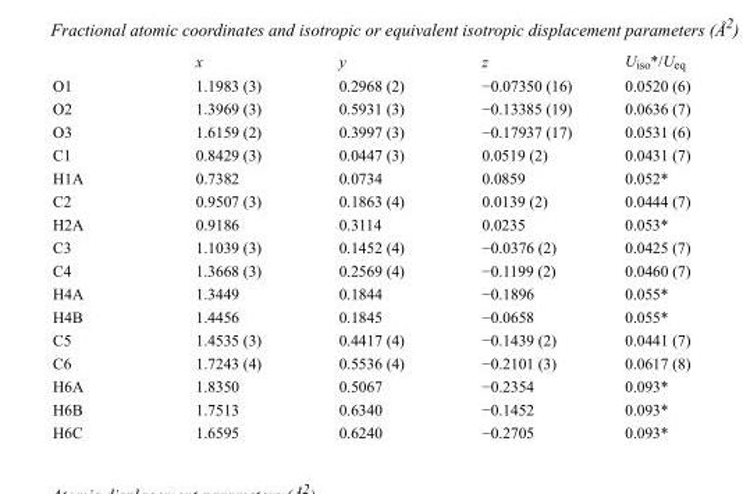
<table><thead><tr><td></td><td>x</td><td>y</td><td>z</td><td>U<sub>iso</sub>*/U<sub>eq</sub></td></tr></thead><tbody><tr><td>O1</td><td>1.1983 (3)</td><td>0.2968 (2)</td><td>−0.07350 (16)</td><td>0.0520 (6)</td></tr><tr><td>O2</td><td>1.3969 (3)</td><td>0.5931 (3)</td><td>−0.13385 (19)</td><td>0.0636 (7)</td></tr><tr><td>O3</td><td>1.6159 (2)</td><td>0.3997 (3)</td><td>−0.17937 (17)</td><td>0.0531 (6)</td></tr><tr><td>C1</td><td>0.8429 (3)</td><td>0.0447 (3)</td><td>0.0519 (2)</td><td>0.0431 (7)</td></tr><tr><td>H1A</td><td>0.7382</td><td>0.0734</td><td>0.0859</td><td>0.052*</td></tr><tr><td>C2</td><td>0.9507 (3)</td><td>0.1863 (4)</td><td>0.0139 (2)</td><td>0.0444 (7)</td></tr><tr><td>H2A</td><td>0.9186</td><td>0.3114</td><td>0.0235</td><td>0.053*</td></tr><tr><td>C3</td><td>1.1039 (3)</td><td>0.1452 (4)</td><td>−0.0376 (2)</td><td>0.0425 (7)</td></tr><tr><td>C4</td><td>1.3668 (3)</td><td>0.2569 (4)</td><td>−0.1199 (2)</td><td>0.0460 (7)</td></tr><tr><td>H4A</td><td>1.3449</td><td>0.1844</td><td>−0.1896</td><td>0.055*</td></tr><tr><td>H4B</td><td>1.4456</td><td>0.1845</td><td>−0.0658</td><td>0.055*</td></tr><tr><td>C5</td><td>1.4535 (3)</td><td>0.4417 (4)</td><td>−0.1439 (2)</td><td>0.0441 (7)</td></tr><tr><td>C6</td><td>1.7243 (4)</td><td>0.5536 (4)</td><td>−0.2101 (3)</td><td>0.0617 (8)</td></tr><tr><td>H6A</td><td>1.8350</td><td>0.5067</td><td>−0.2354</td><td>0.093*</td></tr><tr><td>H6B</td><td>1.7513</td><td>0.6340</td><td>−0.1452</td><td>0.093*</td></tr><tr><td>H6C</td><td>1.6595</td><td>0.6240</td><td>−0.2705</td><td>0.093*</td></tr></tbody></table>